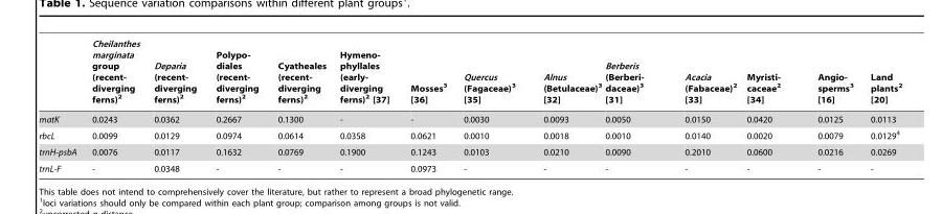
<table><thead><tr><td></td><td>Cheilanthes marginata group (recent- diverging ferns)<sup>2</sup></td><td>Deparia (recent- diverging ferns)<sup>2</sup></td><td>Polypo- diales (recent- diverging ferns)2</td><td>Cyatheales (recent- diverging ferns)<sup>2</sup></td><td>Hymeno- phyllales (early- diverging ferns)2 [37]</td><td>Mosses<sup>3</sup> [36]</td><td>Quercus (Fagaceae)<sup>3</sup> [35]</td><td>Alnus (Betulaceae)<sup>3</sup> [32]</td><td>Berberis (Berberi- daceae)3 [31]</td><td>Acacia (Fabaceae)<sup>2</sup> [33]</td><td>Myristi- caceae2 [34]</td><td>Angio- sperms3 [16]</td><td>Land plants<sup>2</sup> [20]</td></tr></thead><tbody><tr><td>matK</td><td>0.0243</td><td>0.0362</td><td>0.2667</td><td>0.1300</td><td>-</td><td>-</td><td>0.0030</td><td>0.0093</td><td>0.0050</td><td>0.0150</td><td>0.0420</td><td>0.0125</td><td>0.0113</td></tr><tr><td>rbcL</td><td>0.0099</td><td>0.0129</td><td>0.0974</td><td>0.0614</td><td>0.0358</td><td>0.0621</td><td>0.0010</td><td>0.0018</td><td>0.0010</td><td>0.0140</td><td>0.0020</td><td>0.0079</td><td>0.0129<sup>4</sup></td></tr><tr><td>trnH-psbA</td><td>0.0076</td><td>0.0117</td><td>0.1632</td><td>0.0769</td><td>0.1900</td><td>0.1243</td><td>0.0103</td><td>0.0210</td><td>0.0090</td><td>0.2010</td><td>0.0600</td><td>0.0216</td><td>0.0269</td></tr><tr><td>trnL-F</td><td>-</td><td>0.0348</td><td>-</td><td>-</td><td>-</td><td>0.0973</td><td>-</td><td>-</td><td>-</td><td>-</td><td>-</td><td>-</td><td>-</td></tr></tbody></table>